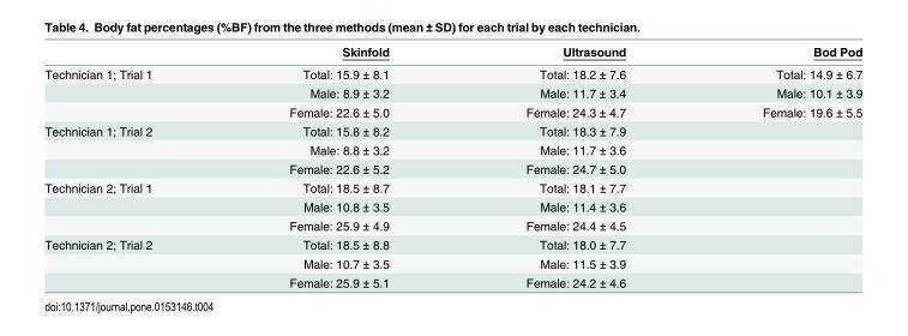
<table><thead><tr><td></td><td>Skinfold</td><td>Ultrasound</td><td>Bod Pod</td></tr></thead><tbody><tr><td rowspan="3">Technician 1; Trial 1</td><td>Total: 15.9 ± 8.1</td><td>Total: 18.2 ± 7.6</td><td>Total: 14.9 ± 6.7</td></tr><tr><td>Male: 8.9 ± 3.2</td><td>Male: 11.7 ± 3.4</td><td>Male: 10.1 ± 3.9</td></tr><tr><td>Female: 22.6 ± 5.0</td><td>Female: 24.3 ± 4.7</td><td>Female: 19.6 ± 5.5</td></tr><tr><td rowspan="3">Technician 1; Trial 2</td><td>Total: 15.8 ± 8.2</td><td>Total: 18.3 ± 7.9</td><td></td></tr><tr><td>Male: 8.8 ± 3.2</td><td>Male: 11.7 ± 3.6</td><td></td></tr><tr><td>Female: 22.6 ± 5.2</td><td>Female: 24.7 ± 5.0</td><td></td></tr><tr><td rowspan="3">Technician 2; Trial 1</td><td>Total: 18.5 ± 8.7</td><td>Total: 18.1 ± 7.7</td><td></td></tr><tr><td>Male: 10.8 ± 3.5</td><td>Male: 11.4 ± 3.6</td><td></td></tr><tr><td>Female: 25.9 ± 4.9</td><td>Female: 24.4 ± 4.5</td><td></td></tr><tr><td rowspan="3">Technician 2; Trial 2</td><td>Total: 18.5 ± 8.8</td><td>Total: 18.0 ± 7.7</td><td></td></tr><tr><td>Male: 10.7 ± 3.5</td><td>Male: 11.5 ± 3.9</td><td></td></tr><tr><td>Female: 25.9 ± 5.1</td><td>Female: 24.2 ± 4.6</td><td></td></tr></tbody></table>